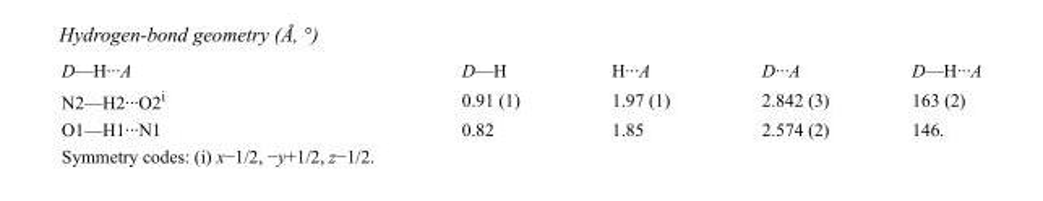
<table><tbody><tr><td>D—H···A</td><td>D—H</td><td>H···A</td><td>D···A</td><td>D—H···A</td></tr><tr><td>N2—H2···O2<sup>i</sup></td><td>0.91 (1)</td><td>1.97 (1)</td><td>2.842 (3)</td><td>163 (2)</td></tr><tr><td>O1—H1···N1</td><td>0.82</td><td>1.85</td><td>2.574 (2)</td><td>146.</td></tr></tbody></table>